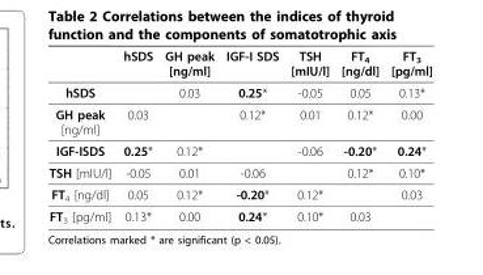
<table><thead><tr><td></td><td>hSDS</td><td>GH peak [ng/ml]</td><td>IGF-I SDS</td><td>TSH [mIU/l]</td><td>FT<sub>4</sub> [ng/dl]</td><td>FT<sub>3</sub> [pg/ml]</td></tr></thead><tbody><tr><td>hSDS</td><td></td><td>0.03</td><td>0.25*</td><td>-0.05</td><td>0.05</td><td>0.13*</td></tr><tr><td>GH peak [ng/ml]</td><td>0.03</td><td></td><td>0.12*</td><td>0.01</td><td>0.12*</td><td>0.00</td></tr><tr><td>IGF-ISDS</td><td>0.25*</td><td>0.12*</td><td></td><td>-0.06</td><td>-0.20*</td><td>0.24*</td></tr><tr><td>TSH [mIU/l]</td><td>-0.05</td><td>0.01</td><td>-0.06</td><td></td><td>0.12*</td><td>0.10*</td></tr><tr><td>FT<sub>4</sub> [ng/dl]</td><td>0.05</td><td>0.12*</td><td>-0.20*</td><td>0.12*</td><td></td><td>0.03</td></tr><tr><td>FT<sub>3</sub> [pg/ml]</td><td>0.13*</td><td>0.00</td><td>0.24*</td><td>0.10*</td><td>0.03</td><td></td></tr></tbody></table>